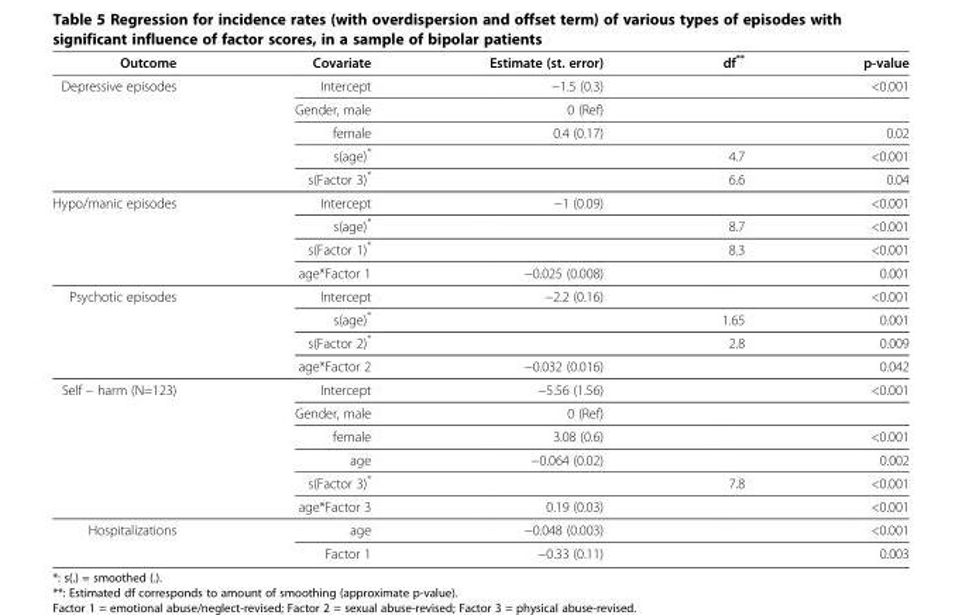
<table><thead><tr><td>Outcome</td><td>Covariate</td><td>Estimate (st. error)</td><td>df**</td><td>p-value</td></tr></thead><tbody><tr><td rowspan="5">Depressive episodes</td><td>Intercept</td><td>−1.5 (0.3)</td><td></td><td>&lt;0.001</td></tr><tr><td>Gender, male</td><td>0 (Ref)</td><td></td><td></td></tr><tr><td>female</td><td>0.4 (0.17)</td><td></td><td>0.02</td></tr><tr><td>s(age)*</td><td></td><td>4.7</td><td>&lt;0.001</td></tr><tr><td>s(Factor 3)*</td><td></td><td>6.6</td><td>0.04</td></tr><tr><td rowspan="4">Hypo/manic episodes</td><td>Intercept</td><td>−1 (0.09)</td><td></td><td>&lt;0.001</td></tr><tr><td>s(age)*</td><td></td><td>8.7</td><td>&lt;0.001</td></tr><tr><td>s(Factor 1)*</td><td></td><td>8.3</td><td>&lt;0.001</td></tr><tr><td>age*Factor 1</td><td>−0.025 (0.008)</td><td></td><td>0.001</td></tr><tr><td rowspan="4">Psychotic episodes</td><td>Intercept</td><td>−2.2 (0.16)</td><td></td><td>&lt;0.001</td></tr><tr><td>s(age)*</td><td></td><td>1.65</td><td>0.001</td></tr><tr><td>s(Factor 2)*</td><td></td><td>2.8</td><td>0.009</td></tr><tr><td>age*Factor 2</td><td>−0.032 (0.016)</td><td></td><td>0.042</td></tr><tr><td rowspan="6">Self – harm (N=123)</td><td>Intercept</td><td>−5.56 (1.56)</td><td></td><td>&lt;0.001</td></tr><tr><td>Gender, male</td><td>0 (Ref)</td><td></td><td></td></tr><tr><td>female</td><td>3.08 (0.6)</td><td></td><td>&lt;0.001</td></tr><tr><td>age</td><td>−0.064 (0.02)</td><td></td><td>0.002</td></tr><tr><td>s(Factor 3)*</td><td></td><td>7.8</td><td>&lt;0.001</td></tr><tr><td>age*Factor 3</td><td>0.19 (0.03)</td><td></td><td>&lt;0.001</td></tr><tr><td rowspan="2">Hospitalizations</td><td>age</td><td>−0.048 (0.003)</td><td></td><td>&lt;0.001</td></tr><tr><td>Factor 1</td><td>−0.33 (0.11)</td><td></td><td>0.003</td></tr></tbody></table>